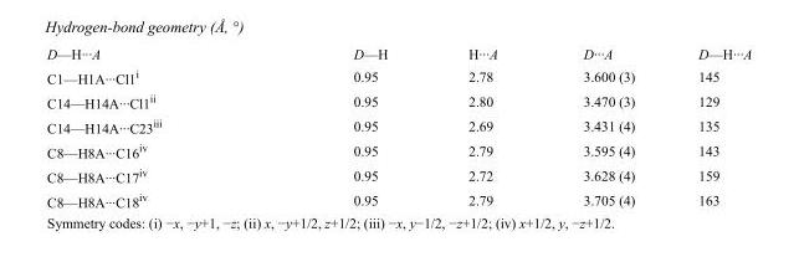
<table><tbody><tr><td>D—H···A</td><td>D—H</td><td>H···A</td><td>D···A</td><td>D—H···A</td></tr><tr><td>C1—H1A···Cl1<sup>i</sup></td><td>0.95</td><td>2.78</td><td>3.600 (3)</td><td>145</td></tr><tr><td>C14—H14A···Cl1<sup>ii</sup></td><td>0.95</td><td>2.80</td><td>3.470 (3)</td><td>129</td></tr><tr><td>C14—H14A···C23<sup>iii</sup></td><td>0.95</td><td>2.69</td><td>3.431 (4)</td><td>135</td></tr><tr><td>C8—H8A···C16<sup>iv</sup></td><td>0.95</td><td>2.79</td><td>3.595 (4)</td><td>143</td></tr><tr><td>C8—H8A···C17<sup>iv</sup></td><td>0.95</td><td>2.72</td><td>3.628 (4)</td><td>159</td></tr><tr><td>C8—H8A···C18<sup>iv</sup></td><td>0.95</td><td>2.79</td><td>3.705 (4)</td><td>163</td></tr></tbody></table>